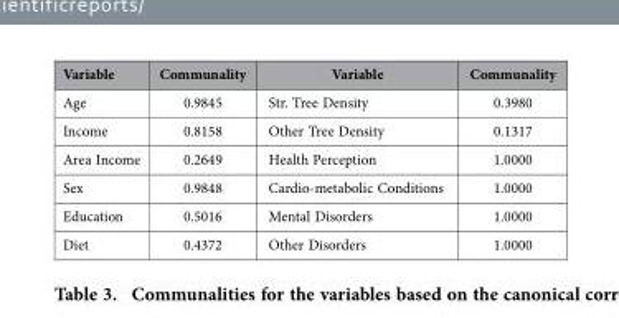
<table><thead><tr><td>Variable</td><td>Communality</td><td>Variable</td><td>Communality</td></tr></thead><tbody><tr><td>Age</td><td>0.9845</td><td>Str. Tree Density</td><td>0.3980</td></tr><tr><td>Income</td><td>0.8158</td><td>Other Tree Density</td><td>0.1317</td></tr><tr><td>Area Income</td><td>0.2649</td><td>Health Perception</td><td>1.0000</td></tr><tr><td>Sex</td><td>0.9848</td><td>Cardio-metabolic Conditions</td><td>1.0000</td></tr><tr><td>Education</td><td>0.5016</td><td>Mental Disorders</td><td>1.0000</td></tr><tr><td>Diet</td><td>0.4372</td><td>Other Disorders</td><td>1.0000</td></tr></tbody></table>